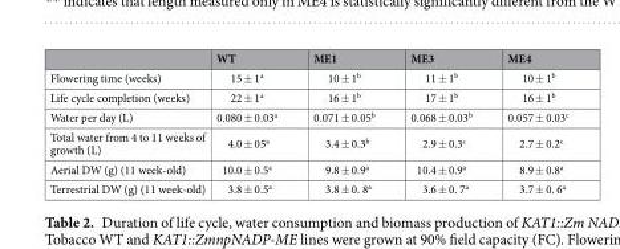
<table><thead><tr><td></td><td>WT</td><td>ME1</td><td>ME3</td><td>ME4</td></tr></thead><tbody><tr><td>Flowering time (weeks)</td><td>15 ± 1<sup>a</sup></td><td>10 ± 1<sup>b</sup></td><td>11 ± 1<sup>b</sup></td><td>10 ± 1<sup>b</sup></td></tr><tr><td>Life cycle completion (weeks)</td><td>22 ± 1<sup>a</sup></td><td>16 ± 1<sup>b</sup></td><td>17 ± 1<sup>b</sup></td><td>16 ± 1<sup>b</sup></td></tr><tr><td>Water per day (L)</td><td>0.080 ± 0.03<sup>a</sup></td><td>0.071 ± 0.05<sup>b</sup></td><td>0.068 ± 0.03<sup>b</sup></td><td>0.057 ± 0.03<sup>c</sup></td></tr><tr><td>Total water from 4 to 11 weeks of growth (L)</td><td>4.0 ± 05<sup>a</sup></td><td>3.4 ± 0.3<sup>b</sup></td><td>2.9 ± 0.3<sup>c</sup></td><td>2.7 ± 0.2<sup>c</sup></td></tr><tr><td>Aerial DW (g) (11 week-old)</td><td>10.0 ± 0.5<sup>a</sup></td><td>9.8 ± 0.9<sup>a</sup></td><td>10.4 ± 0.9<sup>a</sup></td><td>8.9 ± 0.8<sup>a</sup></td></tr><tr><td>Terrestrial DW (g) (11 week-old)</td><td>3.8 ± 0.5<sup>a</sup></td><td>3.8 ± 0. 8<sup>a</sup></td><td>3.6 ± 0. 7<sup>a</sup></td><td>3.7 ± 0. 6<sup>a</sup></td></tr></tbody></table>